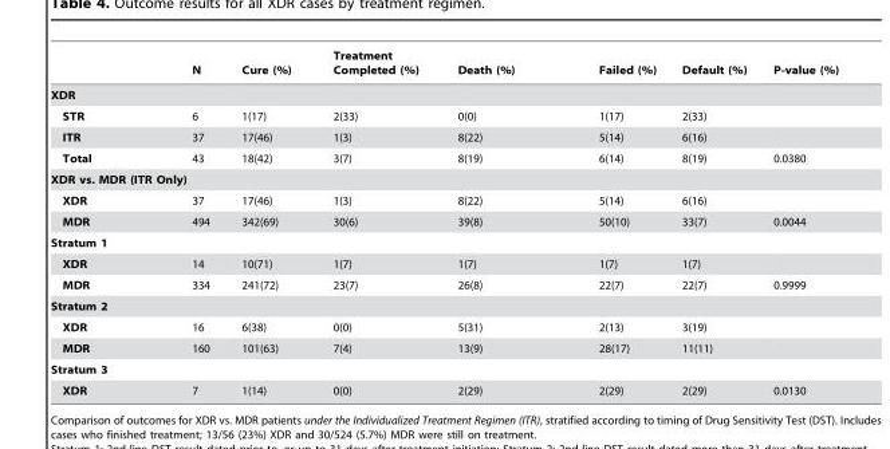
<table><thead><tr><td></td><td>N</td><td>Cure (%)</td><td>Treatment Completed (%)</td><td>Death (%)</td><td>Failed (%)</td><td>Default (%)</td><td>P-value (%)</td></tr></thead><tbody><tr><td colspan="8">XDR</td></tr><tr><td>STR</td><td>6</td><td>1(17)</td><td>2(33)</td><td>0(0)</td><td>1(17)</td><td>2(33)</td><td></td></tr><tr><td>ITR</td><td>37</td><td>17(46)</td><td>1(3)</td><td>8(22)</td><td>5(14)</td><td>6(16)</td><td></td></tr><tr><td>Total</td><td>43</td><td>18(42)</td><td>3(7)</td><td>8(19)</td><td>6(14)</td><td>8(19)</td><td>0.0380</td></tr><tr><td colspan="8">XDR vs. MDR (ITR Only)</td></tr><tr><td>XDR</td><td>37</td><td>17(46)</td><td>1(3)</td><td>8(22)</td><td>5(14)</td><td>6(16)</td><td></td></tr><tr><td>MDR</td><td>494</td><td>342(69)</td><td>30(6)</td><td>39(8)</td><td>50(10)</td><td>33(7)</td><td>0.0044</td></tr><tr><td colspan="8">Stratum 1</td></tr><tr><td>XDR</td><td>14</td><td>10(71)</td><td>1(7)</td><td>1(7)</td><td>1(7)</td><td>1(7)</td><td></td></tr><tr><td>MDR</td><td>334</td><td>241(72)</td><td>23(7)</td><td>26(8)</td><td>22(7)</td><td>22(7)</td><td>0.9999</td></tr><tr><td colspan="8">Stratum 2</td></tr><tr><td>XDR</td><td>16</td><td>6(38)</td><td>0(0)</td><td>5(31)</td><td>2(13)</td><td>3(19)</td><td></td></tr><tr><td>MDR</td><td>160</td><td>101(63)</td><td>7(4)</td><td>13(9)</td><td>28(17)</td><td>11(11)</td><td></td></tr><tr><td colspan="8">Stratum 3</td></tr><tr><td>XDR</td><td>7</td><td>1(14)</td><td>0(0)</td><td>2(29)</td><td>2(29)</td><td>2(29)</td><td>0.0130</td></tr></tbody></table>